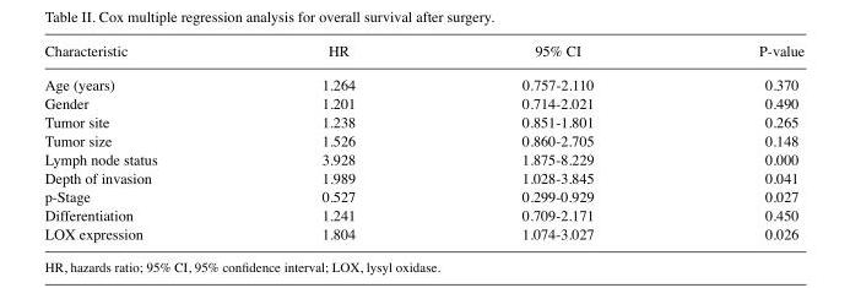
<table><thead><tr><td>Characteristic</td><td>HR</td><td>95% CI</td><td>P-value</td></tr></thead><tbody><tr><td>Age (years)</td><td>1.264</td><td>0.757-2.110</td><td>0.370</td></tr><tr><td>Gender</td><td>1.201</td><td>0.714-2.021</td><td>0.490</td></tr><tr><td>Tumor site</td><td>1.238</td><td>0.851-1.801</td><td>0.265</td></tr><tr><td>Tumor size</td><td>1.526</td><td>0.860-2.705</td><td>0.148</td></tr><tr><td>Lymph node status</td><td>3.928</td><td>1.875-8.229</td><td>0.000</td></tr><tr><td>Depth of invasion</td><td>1.989</td><td>1.028-3.845</td><td>0.041</td></tr><tr><td>p-Stage</td><td>0.527</td><td>0.299-0.929</td><td>0.027</td></tr><tr><td>Differentiation</td><td>1.241</td><td>0.709-2.171</td><td>0.450</td></tr><tr><td>LOX expression</td><td>1.804</td><td>1.074-3.027</td><td>0.026</td></tr></tbody></table>